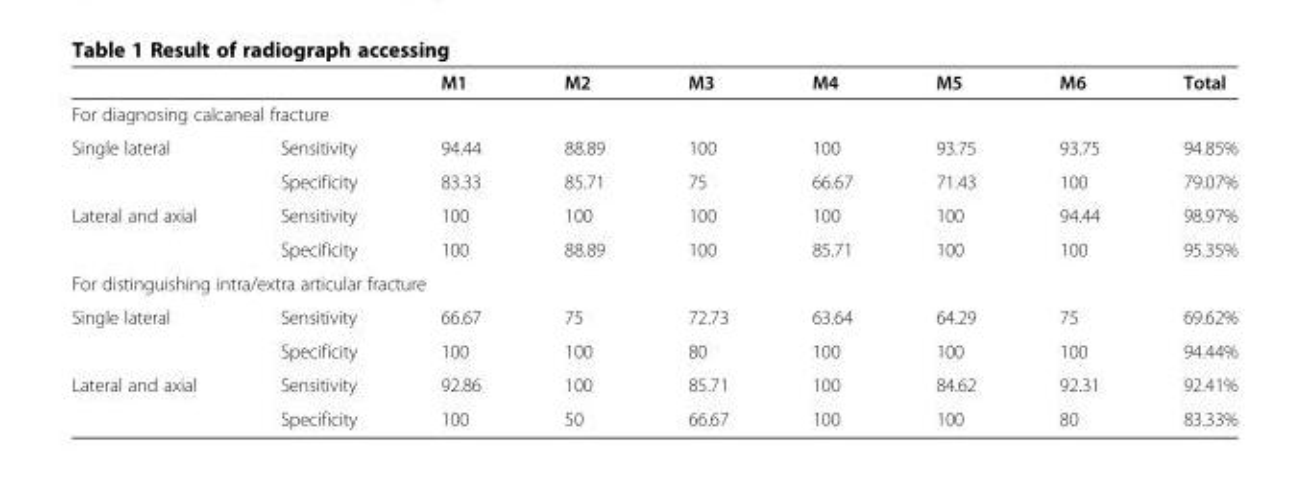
<table><thead><tr><td></td><td></td><td>M1</td><td>M2</td><td>M3</td><td>M4</td><td>M5</td><td>M6</td><td>Total</td></tr></thead><tbody><tr><td colspan="9">For diagnosing calcaneal fracture</td></tr><tr><td rowspan="2">Single lateral</td><td>Sensitivity</td><td>94.44</td><td>88.89</td><td>100</td><td>100</td><td>93.75</td><td>93.75</td><td>94.85%</td></tr><tr><td>Specificity</td><td>83.33</td><td>85.71</td><td>75</td><td>66.67</td><td>71.43</td><td>100</td><td>79.07%</td></tr><tr><td rowspan="2">Lateral and axial</td><td>Sensitivity</td><td>100</td><td>100</td><td>100</td><td>100</td><td>100</td><td>94.44</td><td>98.97%</td></tr><tr><td>Specificity</td><td>100</td><td>88.89</td><td>100</td><td>85.71</td><td>100</td><td>100</td><td>95.35%</td></tr><tr><td colspan="9">For distinguishing intra/extra articular fracture</td></tr><tr><td rowspan="2">Single lateral</td><td>Sensitivity</td><td>66.67</td><td>75</td><td>72.73</td><td>63.64</td><td>64.29</td><td>75</td><td>69.62%</td></tr><tr><td>Specificity</td><td>100</td><td>100</td><td>80</td><td>100</td><td>100</td><td>100</td><td>94.44%</td></tr><tr><td rowspan="2">Lateral and axial</td><td>Sensitivity</td><td>92.86</td><td>100</td><td>85.71</td><td>100</td><td>84.62</td><td>92.31</td><td>92.41%</td></tr><tr><td>Specificity</td><td>100</td><td>50</td><td>66.67</td><td>100</td><td>100</td><td>80</td><td>83.33%</td></tr></tbody></table>